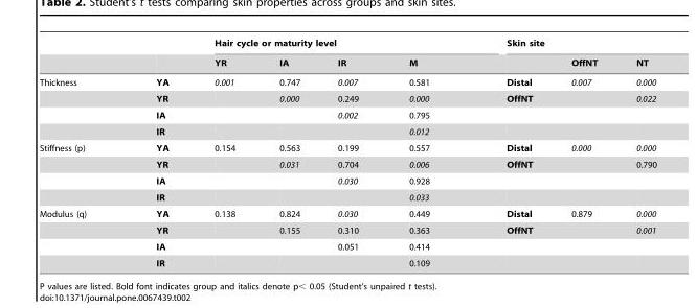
<table><thead><tr><td rowspan="2"></td><td rowspan="2"></td><td colspan="4">Hair cycle or maturity level</td><td colspan="3">Skin site</td></tr><tr><td>YR</td><td>IA</td><td>IR</td><td>M</td><td></td><td>OffNT</td><td>NT</td></tr></thead><tbody><tr><td rowspan="4">Thickness</td><td>YA</td><td>0.001</td><td>0.747</td><td>0.007</td><td>0.581</td><td>Distal</td><td>0.007</td><td>0.000</td></tr><tr><td>YR</td><td></td><td>0.000</td><td>0.249</td><td>0.000</td><td>OffNT</td><td></td><td>0.022</td></tr><tr><td>IA</td><td></td><td></td><td>0.002</td><td>0.795</td><td></td><td></td><td></td></tr><tr><td>IR</td><td></td><td></td><td></td><td>0.012</td><td></td><td></td><td></td></tr><tr><td rowspan="4">Stiffness (p)</td><td>YA</td><td>0.154</td><td>0.563</td><td>0.199</td><td>0.557</td><td>Distal</td><td>0.000</td><td>0.000</td></tr><tr><td>YR</td><td></td><td>0.031</td><td>0.704</td><td>0.006</td><td>OffNT</td><td></td><td>0.790</td></tr><tr><td>IA</td><td></td><td></td><td>0.030</td><td>0.928</td><td></td><td></td><td></td></tr><tr><td>IR</td><td></td><td></td><td></td><td>0.033</td><td></td><td></td><td></td></tr><tr><td rowspan="4">Modulus (q)</td><td>YA</td><td>0.138</td><td>0.824</td><td>0.030</td><td>0.449</td><td>Distal</td><td>0.879</td><td>0.000</td></tr><tr><td>YR</td><td></td><td>0.155</td><td>0.310</td><td>0.363</td><td>OffNT</td><td></td><td>0.001</td></tr><tr><td>IA</td><td></td><td></td><td>0.051</td><td>0.414</td><td></td><td></td><td></td></tr><tr><td>IR</td><td></td><td></td><td></td><td>0.109</td><td></td><td></td><td></td></tr></tbody></table>